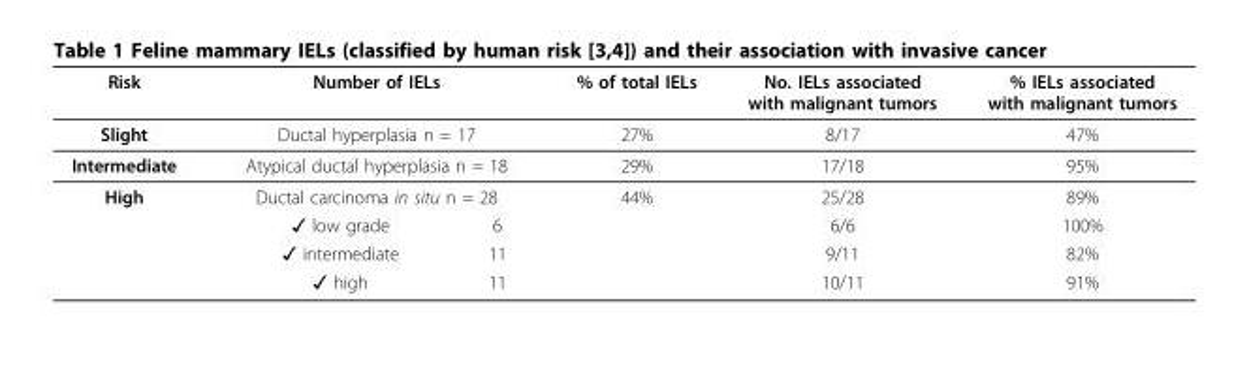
<table><thead><tr><td>Risk</td><td colspan="2">Number of IELs</td><td>% of total IELs</td><td>No. IELs associated with malignant tumors</td><td>% IELs associated with malignant tumors</td></tr></thead><tbody><tr><td>Slight</td><td colspan="2">Ductal hyperplasia n = 17</td><td>27%</td><td>8/17</td><td>47%</td></tr><tr><td>Intermediate</td><td colspan="2">Atypical ductal hyperplasia n = 18</td><td>29%</td><td>17/18</td><td>95%</td></tr><tr><td rowspan="4">High</td><td colspan="2">Ductal carcinoma in situ n = 28</td><td>44%</td><td>25/28</td><td>89%</td></tr><tr><td>✓ low grade</td><td>6</td><td></td><td>6/6</td><td>100%</td></tr><tr><td>✓ intermediate</td><td>11</td><td></td><td>9/11</td><td>82%</td></tr><tr><td>✓ high</td><td>11</td><td></td><td>10/11</td><td>91%</td></tr></tbody></table>